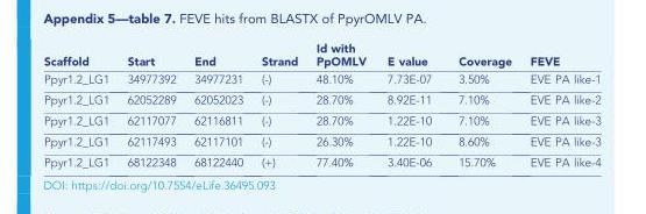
<table><thead><tr><td>Scaffold</td><td>Start</td><td>End</td><td>Strand</td><td>Id with PpOMLV</td><td>E value</td><td>Coverage</td><td>FEVE</td></tr></thead><tbody><tr><td>Ppyr1.2_LG1</td><td>34977392</td><td>34977231</td><td>(-)</td><td>48.10%</td><td>7.73E-07</td><td>3.50%</td><td>EVE PA like-1</td></tr><tr><td>Ppyr1.2_LG1</td><td>62052289</td><td>62052023</td><td>(-)</td><td>28.70%</td><td>8.92E-11</td><td>7.10%</td><td>EVE PA like-2</td></tr><tr><td>Ppyr1.2_LG1</td><td>62117077</td><td>62116811</td><td>(-)</td><td>28.70%</td><td>1.22E-10</td><td>7.10%</td><td>EVE PA like-3</td></tr><tr><td>Ppyr1.2_LG1</td><td>62117493</td><td>62117101</td><td>(-)</td><td>26.30%</td><td>1.22E-10</td><td>8.60%</td><td>EVE PA like-3</td></tr><tr><td>Ppyr1.2_LG1</td><td>68122348</td><td>68122440</td><td>(+)</td><td>77.40%</td><td>3.40E-06</td><td>15.70%</td><td>EVE PA like-4</td></tr></tbody></table>